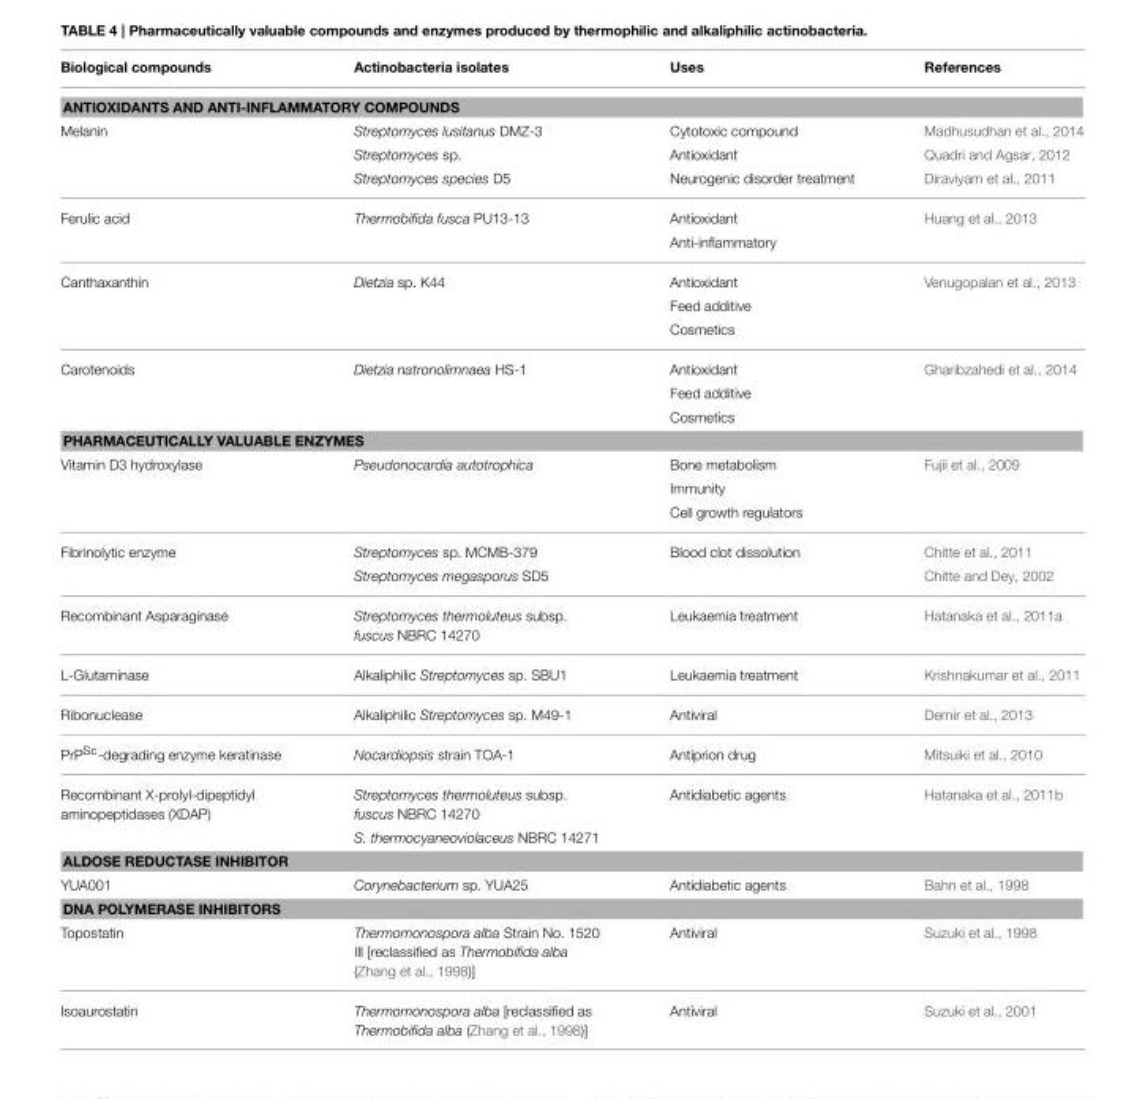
<table><thead><tr><td>Biological compounds</td><td>Actinobacteria isolates</td><td>Uses</td><td>References</td></tr></thead><tbody><tr><td colspan="4">ANTIOXIDANTS AND ANTI-INFLAMMATORY COMPOUNDS</td></tr><tr><td rowspan="3">Melanin</td><td>Streptomyces lusitanus DMZ-3</td><td>Cytotoxic compound</td><td>Madhusudhan et al., 2014</td></tr><tr><td>Streptomyces sp.</td><td>Antioxidant</td><td>Quadri and Agsar, 2012</td></tr><tr><td>Streptomyces species D5</td><td>Neurogenic disorder treatment</td><td>Diraviyam et al., 2011</td></tr><tr><td rowspan="2">Ferulic acid</td><td>Thermobifida fusca PU13-13</td><td>Antioxidant</td><td>Huang et al., 2013</td></tr><tr><td></td><td>Anti-inflammatory</td><td></td></tr><tr><td rowspan="3">Canthaxanthin</td><td>Dietzia sp. K44</td><td>Antioxidant</td><td>Venugopalan et al., 2013</td></tr><tr><td></td><td>Feed additive</td><td></td></tr><tr><td></td><td>Cosmetics</td><td></td></tr><tr><td rowspan="3">Carotenoids</td><td>Dietzia natronolimnaea HS-1</td><td>Antioxidant</td><td>Gharibzahedi et al., 2014</td></tr><tr><td></td><td>Feed additive</td><td></td></tr><tr><td></td><td>Cosmetics</td><td></td></tr><tr><td colspan="4">PHARMACEUTICALLY VALUABLE ENZYMES</td></tr><tr><td rowspan="3">Vitamin D3 hydroxylase</td><td>Pseudonocardia autotrophica</td><td>Bone metabolism</td><td>Fujii et al., 2009</td></tr><tr><td></td><td>Immunity</td><td></td></tr><tr><td></td><td>Cell growth regulators</td><td></td></tr><tr><td rowspan="2">Fibrinolytic enzyme</td><td>Streptomyces sp. MCMB-379</td><td>Blood clot dissolution</td><td>Chitte et al., 2011</td></tr><tr><td>Streptomyces megasporus SD5</td><td></td><td>Chitte and Dey, 2002</td></tr><tr><td>Recombinant Asparaginase</td><td>Streptomyces thermoluteus subsp. fuscus NBRC 14270</td><td>Leukaemia treatment</td><td>Hatanaka et al., 2011a</td></tr><tr><td>L-Glutaminase</td><td>Alkaliphilic Streptomyces sp. SBU1</td><td>Leukaemia treatment</td><td>Krishnakumar et al., 2011</td></tr><tr><td>Ribonuclease</td><td>Alkaliphilic Streptomyces sp. M49-1</td><td>Antiviral</td><td>Demir et al., 2013</td></tr><tr><td>PrP<sup>Sc</sup>-degrading enzyme keratinase</td><td>Nocardiopsis strain TOA-1</td><td>Antiprion drug</td><td>Mitsuiki et al., 2010</td></tr><tr><td rowspan="2">Recombinant X-prolyl-dipeptidyl aminopeptidases (XDAP)</td><td>Streptomyces thermoluteus subsp. fuscus NBRC 14270</td><td>Antidiabetic agents</td><td>Hatanaka et al., 2011b</td></tr><tr><td>S. thermocyaneoviolaceus NBRC 14271</td><td></td><td></td></tr><tr><td colspan="4">ALDOSE REDUCTASE INHIBITOR</td></tr><tr><td>YUA001</td><td>Corynebacterium sp. YUA25</td><td>Antidiabetic agents</td><td>Bahn et al., 1998</td></tr><tr><td colspan="4">DNA POLYMERASE INHIBITORS</td></tr><tr><td>Topostatin</td><td>Thermomonospora alba Strain No. 1520 III [reclassified as Thermobifida alba (Zhang et al., 1998)]</td><td>Antiviral</td><td>Suzuki et al., 1998</td></tr><tr><td>Isoaurostatin</td><td>Thermomonospora alba [reclassified as Thermobifida alba (Zhang et al., 1998)]</td><td>Antiviral</td><td>Suzuki et al., 2001</td></tr></tbody></table>